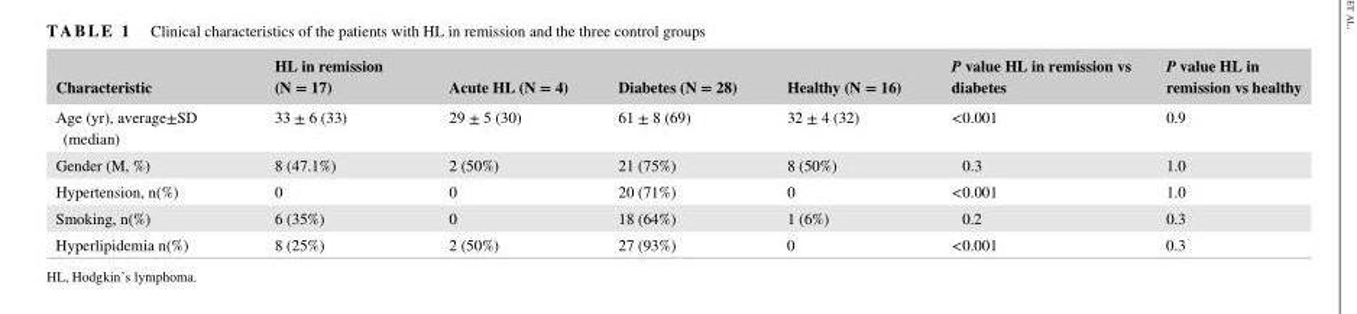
<table><thead><tr><td>Characteristic</td><td>HL in remission (N = 17)</td><td>Acute HL (N = 4)</td><td>Diabetes (N = 28)</td><td>Healthy (N = 16)</td><td>P value HL in remission vs diabetes</td><td>P value HL in remission vs healthy</td></tr></thead><tbody><tr><td>Age (yr), average±SD (median)</td><td>33 ± 6 (33)</td><td>29 ± 5 (30)</td><td>61 ± 8 (69)</td><td>32 ± 4 (32)</td><td>&lt;0.001</td><td>0.9</td></tr><tr><td>Gender (M, %)</td><td>8 (47.1%)</td><td>2 (50%)</td><td>21 (75%)</td><td>8 (50%)</td><td>0.3</td><td>1.0</td></tr><tr><td>Hypertension, n(%)</td><td>0</td><td>0</td><td>20 (71%)</td><td>0</td><td>&lt;0.001</td><td>1.0</td></tr><tr><td>Smoking, n(%)</td><td>6 (35%)</td><td>0</td><td>18 (64%)</td><td>1 (6%)</td><td>0.2</td><td>0.3</td></tr><tr><td>Hyperlipidemia n(%)</td><td>8 (25%)</td><td>2 (50%)</td><td>27 (93%)</td><td>0</td><td>&lt;0.001</td><td>0.3</td></tr></tbody></table>